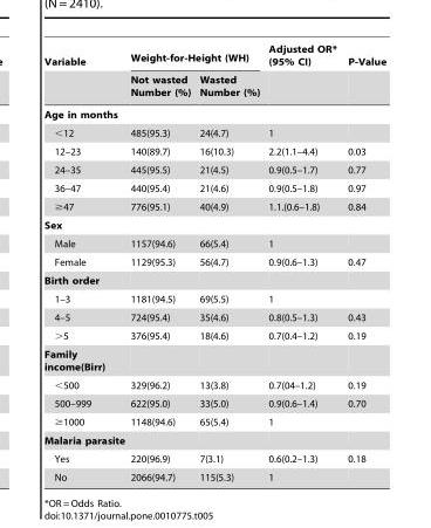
<table><thead><tr><td rowspan="2">Variable</td><td colspan="2">Weight-for-Height (WH)</td><td rowspan="2">Adjusted OR* (95% CI)</td><td rowspan="2">P-Value</td></tr><tr><td>Not wasted Number (%)</td><td>Wasted Number (%)</td></tr></thead><tbody><tr><td colspan="5">Age in months</td></tr><tr><td>&lt;12</td><td>485(95.3)</td><td>24(4.7)</td><td>1</td><td></td></tr><tr><td>12–23</td><td>140(89.7)</td><td>16(10.3)</td><td>2.2(1.1–4.4)</td><td>0.03</td></tr><tr><td>24–35</td><td>445(95.5)</td><td>21(4.5)</td><td>0.9(0.5–1.7)</td><td>0.77</td></tr><tr><td>36–47</td><td>440(95.4)</td><td>21(4.6)</td><td>0.9(0.5–1.8)</td><td>0.97</td></tr><tr><td>≥47</td><td>776(95.1)</td><td>40(4.9)</td><td>1.1.(0.6–1.8)</td><td>0.84</td></tr><tr><td colspan="5">Sex</td></tr><tr><td>Male</td><td>1157(94.6)</td><td>66(5.4)</td><td>1</td><td></td></tr><tr><td>Female</td><td>1129(95.3)</td><td>56(4.7)</td><td>0.9(0.6–1.3)</td><td>0.47</td></tr><tr><td colspan="5">Birth order</td></tr><tr><td>1–3</td><td>1181(94.5)</td><td>69(5.5)</td><td>1</td><td></td></tr><tr><td>4–5</td><td>724(95.4)</td><td>35(4.6)</td><td>0.8(0.5–1.3)</td><td>0.43</td></tr><tr><td>&gt;5</td><td>376(95.4)</td><td>18(4.6)</td><td>0.7(0.4–1.2)</td><td>0.19</td></tr><tr><td colspan="5">Family income(Birr)</td></tr><tr><td>&lt;500</td><td>329(96.2)</td><td>13(3.8)</td><td>0.7(04–1.2)</td><td>0.19</td></tr><tr><td>500–999</td><td>622(95.0)</td><td>33(5.0)</td><td>0.9(0.6–1.4)</td><td>0.70</td></tr><tr><td>≥1000</td><td>1148(94.6)</td><td>65(5.4)</td><td>1</td><td></td></tr><tr><td colspan="5">Malaria parasite</td></tr><tr><td>Yes</td><td>220(96.9)</td><td>7(3.1)</td><td>0.6(0.2–1.3)</td><td>0.18</td></tr><tr><td>No</td><td>2066(94.7)</td><td>115(5.3)</td><td>1</td><td></td></tr></tbody></table>